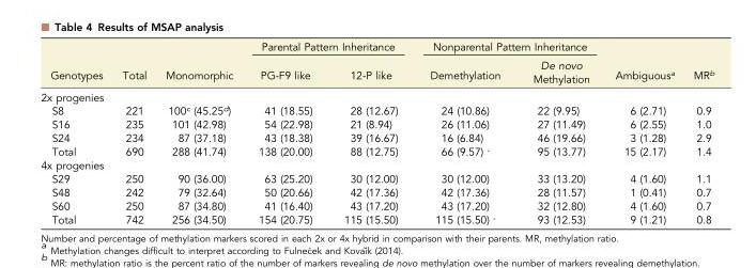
<table><thead><tr><td rowspan="2">Genotypes</td><td rowspan="2">Total</td><td rowspan="2">Monomorphic</td><td colspan="2">Parental Pattern Inheritance</td><td colspan="2">Nonparental Pattern Inheritance</td><td rowspan="2">Ambiguous<sup>a</sup></td><td rowspan="2">MR<sup>b</sup></td></tr><tr><td>PG-F9 like</td><td>12-P like</td><td>Demethylation</td><td>De novo Methylation</td></tr></thead><tbody><tr><td colspan="9">2x progenies</td></tr><tr><td>S8</td><td>221</td><td>100<sup>c</sup> (45.25<sup>d</sup>)</td><td>41 (18.55)</td><td>28 (12.67)</td><td>24 (10.86)</td><td>22 (9.95)</td><td>6 (2.71)</td><td>0.9</td></tr><tr><td>S16</td><td>235</td><td>101 (42.98)</td><td>54 (22.98)</td><td>21 (8.94)</td><td>26 (11.06)</td><td>27 (11.49)</td><td>6 (2.55)</td><td>1.0</td></tr><tr><td>S24</td><td>234</td><td>87 (37.18)</td><td>43 (18.38)</td><td>39 (16.67)</td><td>16 (6.84)</td><td>46 (19.66)</td><td>3 (1.28)</td><td>2.9</td></tr><tr><td>Total</td><td>690</td><td>288 (41.74)</td><td>138 (20.00)</td><td>88 (12.75)</td><td>66 (9.57) *</td><td>95 (13.77)</td><td>15 (2.17)</td><td>1.4</td></tr><tr><td colspan="9">4x progenies</td></tr><tr><td>S29</td><td>250</td><td>90 (36.00)</td><td>63 (25.20)</td><td>30 (12.00)</td><td>30 (12.00)</td><td>33 (13.20)</td><td>4 (1.60)</td><td>1.1</td></tr><tr><td>S48</td><td>242</td><td>79 (32.64)</td><td>50 (20.66)</td><td>42 (17.36)</td><td>42 (17.36)</td><td>28 (11.57)</td><td>1 (0.41)</td><td>0.7</td></tr><tr><td>S60</td><td>250</td><td>87 (34.80)</td><td>41 (16.40)</td><td>43 (17.20)</td><td>43 (17.20)</td><td>32 (12.80)</td><td>4 (1.60)</td><td>0.7</td></tr><tr><td>Total</td><td>742</td><td>256 (34.50)</td><td>154 (20.75)</td><td>115 (15.50)</td><td>115 (15.50) *</td><td>93 (12.53)</td><td>9 (1.21)</td><td>0.8</td></tr></tbody></table>